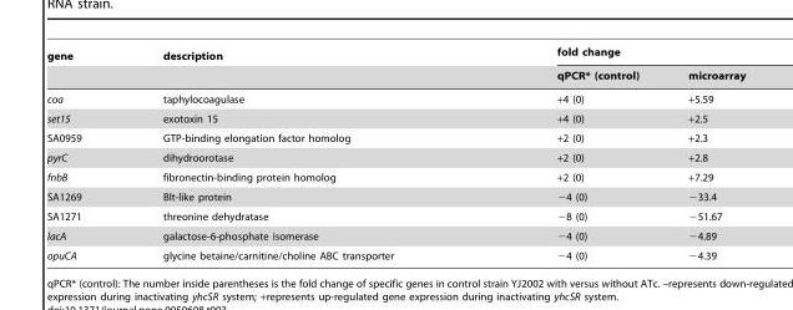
<table><thead><tr><td rowspan="2">gene</td><td rowspan="2">description</td><td colspan="2">fold change</td></tr><tr><td>qPCR* (control)</td><td>microarray</td></tr></thead><tbody><tr><td>coa</td><td>taphylocoagulase</td><td>+4 (0)</td><td>+5.59</td></tr><tr><td>set15</td><td>exotoxin 15</td><td>+4 (0)</td><td>+2.5</td></tr><tr><td>SA0959</td><td>GTP-binding elongation factor homolog</td><td>+2 (0)</td><td>+2.3</td></tr><tr><td>pyrC</td><td>dihydroorotase</td><td>+2 (0)</td><td>+2.8</td></tr><tr><td>fnbB</td><td>fibronectin-binding protein homolog</td><td>+2 (0)</td><td>+7.29</td></tr><tr><td>SA1269</td><td>Blt-like protein</td><td>−4 (0)</td><td>−33.4</td></tr><tr><td>SA1271</td><td>threonine dehydratase</td><td>−8 (0)</td><td>−51.67</td></tr><tr><td>lacA</td><td>galactose-6-phosphate isomerase</td><td>−4 (0)</td><td>−4.89</td></tr><tr><td>opuCA</td><td>glycine betaine/carnitine/choline ABC transporter</td><td>−4 (0)</td><td>−4.39</td></tr></tbody></table>